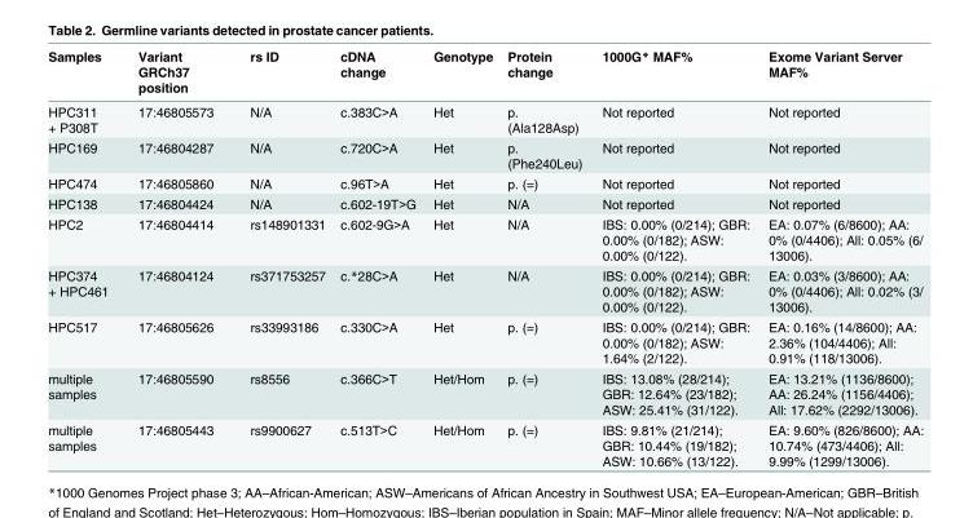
<table><thead><tr><td>Samples</td><td>Variant GRCh37 position</td><td>rs ID</td><td>cDNA change</td><td>Genotype</td><td>Protein change</td><td>1000G* MAF%</td><td>Exome Variant Server MAF%</td></tr></thead><tbody><tr><td>HPC311 + P308T</td><td>17:46805573</td><td>N/A</td><td>c.383C&gt;A</td><td>Het</td><td>p. (Ala128Asp)</td><td>Not reported</td><td>Not reported</td></tr><tr><td>HPC169</td><td>17:46804287</td><td>N/A</td><td>c.720C&gt;A</td><td>Het</td><td>p. (Phe240Leu)</td><td>Not reported</td><td>Not reported</td></tr><tr><td>HPC474</td><td>17:46805860</td><td>N/A</td><td>c.96T&gt;A</td><td>Het</td><td>p. (=)</td><td>Not reported</td><td>Not reported</td></tr><tr><td>HPC138</td><td>17:46804424</td><td>N/A</td><td>c.602-19T&gt;G</td><td>Het</td><td>N/A</td><td>Not reported</td><td>Not reported</td></tr><tr><td>HPC2</td><td>17:46804414</td><td>rs148901331</td><td>c.602-9G&gt;A</td><td>Het</td><td>N/A</td><td>IBS: 0.00% (0/214); GBR: 0.00% (0/182); ASW: 0.00% (0/122).</td><td>EA: 0.07% (6/8600); AA: 0% (0/4406); All: 0.05% (6/ 13006).</td></tr><tr><td>HPC374 + HPC461</td><td>17:46804124</td><td>rs371753257</td><td>c.*28C&gt;A</td><td>Het</td><td>N/A</td><td>IBS: 0.00% (0/214); GBR: 0.00% (0/182); ASW: 0.00% (0/122).</td><td>EA: 0.03% (3/8600); AA: 0% (0/4406); All: 0.02% (3/ 13006).</td></tr><tr><td>HPC517</td><td>17:46805626</td><td>rs33993186</td><td>c.330C&gt;A</td><td>Het</td><td>p. (=)</td><td>IBS: 0.00% (0/214); GBR: 0.00% (0/182); ASW: 1.64% (2/122).</td><td>EA: 0.16% (14/8600); AA: 2.36% (104/4406); All: 0.91% (118/13006).</td></tr><tr><td>multiple samples</td><td>17:46805590</td><td>rs8556</td><td>c.366C&gt;T</td><td>Het/Hom</td><td>p. (=)</td><td>IBS: 13.08% (28/214); GBR: 12.64% (23/182); ASW: 25.41% (31/122).</td><td>EA: 13.21% (1136/8600); AA: 26.24% (1156/4406); All: 17.62% (2292/13006).</td></tr><tr><td>multiple samples</td><td>17:46805443</td><td>rs9900627</td><td>c.513T&gt;C</td><td>Het/Hom</td><td>p. (=)</td><td>IBS: 9.81% (21/214); GBR: 10.44% (19/182); ASW: 10.66% (13/122).</td><td>EA: 9.60% (826/8600); AA: 10.74% (473/4406); All: 9.99% (1299/13006).</td></tr></tbody></table>